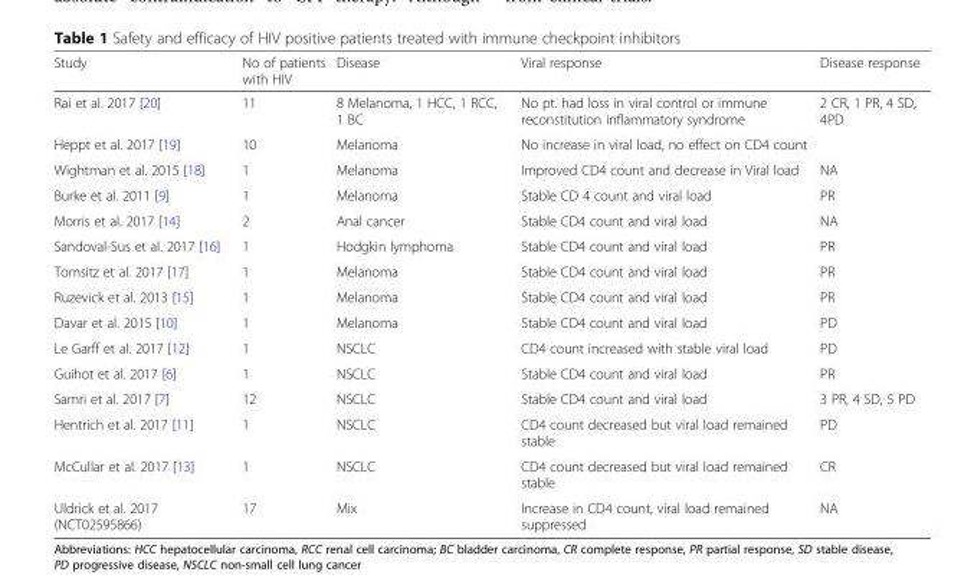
<table><thead><tr><td>Study</td><td>No of patients with HIV</td><td>Disease</td><td>Viral response</td><td>Disease response</td></tr></thead><tbody><tr><td>Rai et al. 2017 [20]</td><td>11</td><td>8 Melanoma, 1 HCC, 1 RCC, 1 BC</td><td>No pt. had loss in viral control or immune reconstitution inflammatory syndrome</td><td>2 CR, 1 PR, 4 SD, 4PD</td></tr><tr><td>Heppt et al. 2017 [19]</td><td>10</td><td>Melanoma</td><td>No increase in viral load, no effect on CD4 count</td><td></td></tr><tr><td>Wightman et al. 2015 [18]</td><td>1</td><td>Melanoma</td><td>Improved CD4 count and decrease in Viral load</td><td>NA</td></tr><tr><td>Burke et al. 2011 [9]</td><td>1</td><td>Melanoma</td><td>Stable CD 4 count and viral load</td><td>PR</td></tr><tr><td>Morris et al. 2017 [14]</td><td>2</td><td>Anal cancer</td><td>Stable CD4 count and viral load</td><td>NA</td></tr><tr><td>Sandoval-Sus et al. 2017 [16]</td><td>1</td><td>Hodgkin lymphoma</td><td>Stable CD4 count and viral load</td><td>PR</td></tr><tr><td>Tomsitz et al. 2017 [17]</td><td>1</td><td>Melanoma</td><td>Stable CD4 count and viral load</td><td>PR</td></tr><tr><td>Ruzevick et al. 2013 [15]</td><td>1</td><td>Melanoma</td><td>Stable CD4 count and viral load</td><td>PR</td></tr><tr><td>Davar et al. 2015 [10]</td><td>1</td><td>Melanoma</td><td>Stable CD4 count and viral load</td><td>PD</td></tr><tr><td>Le Garff et al. 2017 [12]</td><td>1</td><td>NSCLC</td><td>CD4 count increased with stable viral load</td><td>PD</td></tr><tr><td>Guihot et al. 2017 [6]</td><td>1</td><td>NSCLC</td><td>Stable CD4 count and viral load</td><td>PR</td></tr><tr><td>Samri et al. 2017 [7]</td><td>12</td><td>NSCLC</td><td>Stable CD4 count and viral load</td><td>3 PR, 4 SD, 5 PD</td></tr><tr><td>Hentrich et al. 2017 [11]</td><td>1</td><td>NSCLC</td><td>CD4 count decreased but viral load remained stable</td><td>PD</td></tr><tr><td>McCullar et al. 2017 [13]</td><td>1</td><td>NSCLC</td><td>CD4 count decreased but viral load remained stable</td><td>CR</td></tr><tr><td>Uldrick et al. 2017 (NCT02595866)</td><td>17</td><td>Mix</td><td>Increase in CD4 count, viral load remained suppressed</td><td>NA</td></tr></tbody></table>